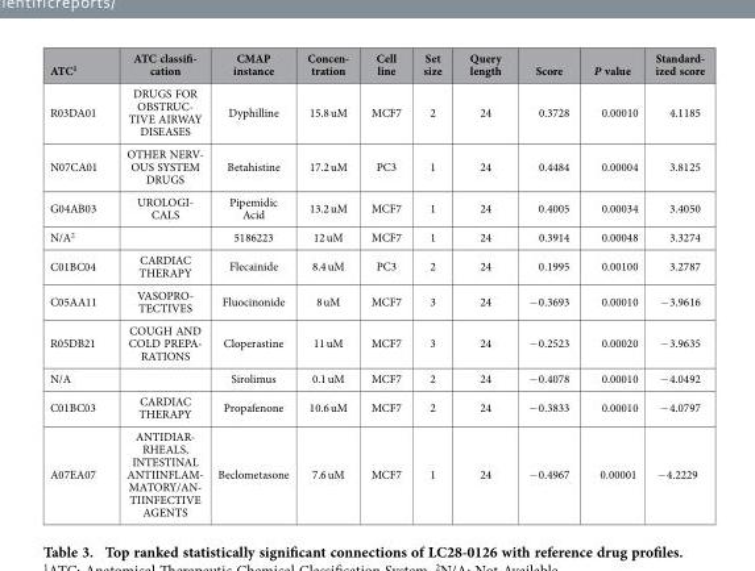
<table><thead><tr><td>ATC<sup>1</sup></td><td>ATC classifi- cation</td><td>CMAP instance</td><td>Concen- tration</td><td>Cell line</td><td>Set size</td><td>Query length</td><td>Score</td><td>P value</td><td>Standard- ized score</td></tr></thead><tbody><tr><td>R03DA01</td><td>DRUGS FOR OBSTRUC- TIVE AIRWAY DISEASES</td><td>Dyphilline</td><td>15.8 uM</td><td>MCF7</td><td>2</td><td>24</td><td>0.3728</td><td>0.00010</td><td>4.1185</td></tr><tr><td>N07CA01</td><td>OTHER NERV- OUS SYSTEM DRUGS</td><td>Betahistine</td><td>17.2 uM</td><td>PC3</td><td>1</td><td>24</td><td>0.4484</td><td>0.00004</td><td>3.8125</td></tr><tr><td>G04AB03</td><td>UROLOGI- CALS</td><td>Pipemidic Acid</td><td>13.2 uM</td><td>MCF7</td><td>1</td><td>24</td><td>0.4005</td><td>0.00034</td><td>3.4050</td></tr><tr><td>N/A<sup>2</sup></td><td></td><td>5186223</td><td>12 uM</td><td>MCF7</td><td>1</td><td>24</td><td>0.3914</td><td>0.00048</td><td>3.3274</td></tr><tr><td>C01BC04</td><td>CARDIAC THERAPY</td><td>Flecainide</td><td>8.4 uM</td><td>PC3</td><td>2</td><td>24</td><td>0.1995</td><td>0.00100</td><td>3.2787</td></tr><tr><td>C05AA11</td><td>VASOPRO- TECTIVES</td><td>Fluocinonide</td><td>8 uM</td><td>MCF7</td><td>3</td><td>24</td><td>− 0.3693</td><td>0.00010</td><td>− 3.9616</td></tr><tr><td>R05DB21</td><td>COUGH AND COLD PREPA- RATIONS</td><td>Cloperastine</td><td>11 uM</td><td>MCF7</td><td>3</td><td>24</td><td>− 0.2523</td><td>0.00020</td><td>− 3.9635</td></tr><tr><td>N/A</td><td></td><td>Sirolimus</td><td>0.1 uM</td><td>MCF7</td><td>2</td><td>24</td><td>− 0.4078</td><td>0.00010</td><td>− 4.0492</td></tr><tr><td>C01BC03</td><td>CARDIAC THERAPY</td><td>Propafenone</td><td>10.6 uM</td><td>MCF7</td><td>2</td><td>24</td><td>− 0.3833</td><td>0.00010</td><td>− 4.0797</td></tr><tr><td>A07EA07</td><td>ANTIDIAR- RHEALS, INTESTINAL ANTIINFLAM- MATORY/AN- TIINFECTIVE AGENTS</td><td>Beclometasone</td><td>7.6 uM</td><td>MCF7</td><td>1</td><td>24</td><td>− 0.4967</td><td>0.00001</td><td>− 4.2229</td></tr></tbody></table>